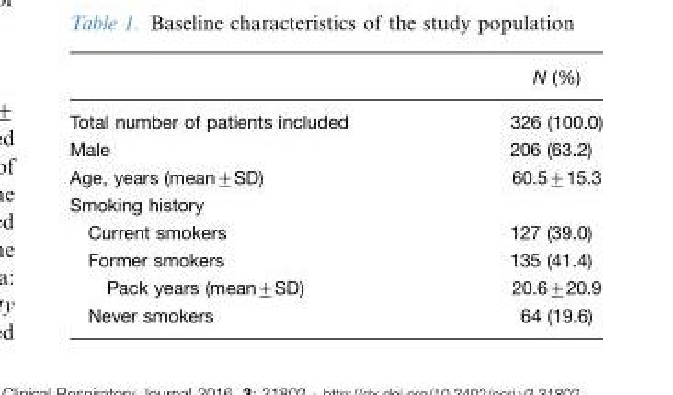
<table><thead><tr><td></td><td>N (%)</td></tr></thead><tbody><tr><td>Total number of patients included</td><td>326 (100.0)</td></tr><tr><td>Male</td><td>206 (63.2)</td></tr><tr><td>Age, years (mean±SD)</td><td>60.5±15.3</td></tr><tr><td colspan="2">Smoking history</td></tr><tr><td>Current smokers</td><td>127 (39.0)</td></tr><tr><td>Former smokers</td><td>135 (41.4)</td></tr><tr><td>Pack years (mean±SD)</td><td>20.6±20.9</td></tr><tr><td>Never smokers</td><td>64 (19.6)</td></tr></tbody></table>